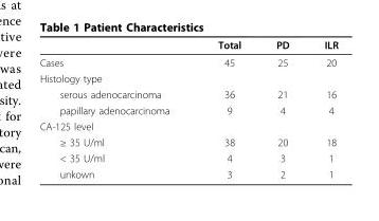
<table><thead><tr><td></td><td>Total</td><td>PD</td><td>ILR</td></tr></thead><tbody><tr><td>Cases</td><td>45</td><td>25</td><td>20</td></tr><tr><td colspan="4">Histology type</td></tr><tr><td>serous adenocarcinoma</td><td>36</td><td>21</td><td>16</td></tr><tr><td>papillary adenocarcinoma</td><td>9</td><td>4</td><td>4</td></tr><tr><td colspan="4">CA-125 level</td></tr><tr><td>≥ 35 U/ml</td><td>38</td><td>20</td><td>18</td></tr><tr><td>&lt; 35 U/ml</td><td>4</td><td>3</td><td>1</td></tr><tr><td>unkown</td><td>3</td><td>2</td><td>1</td></tr></tbody></table>